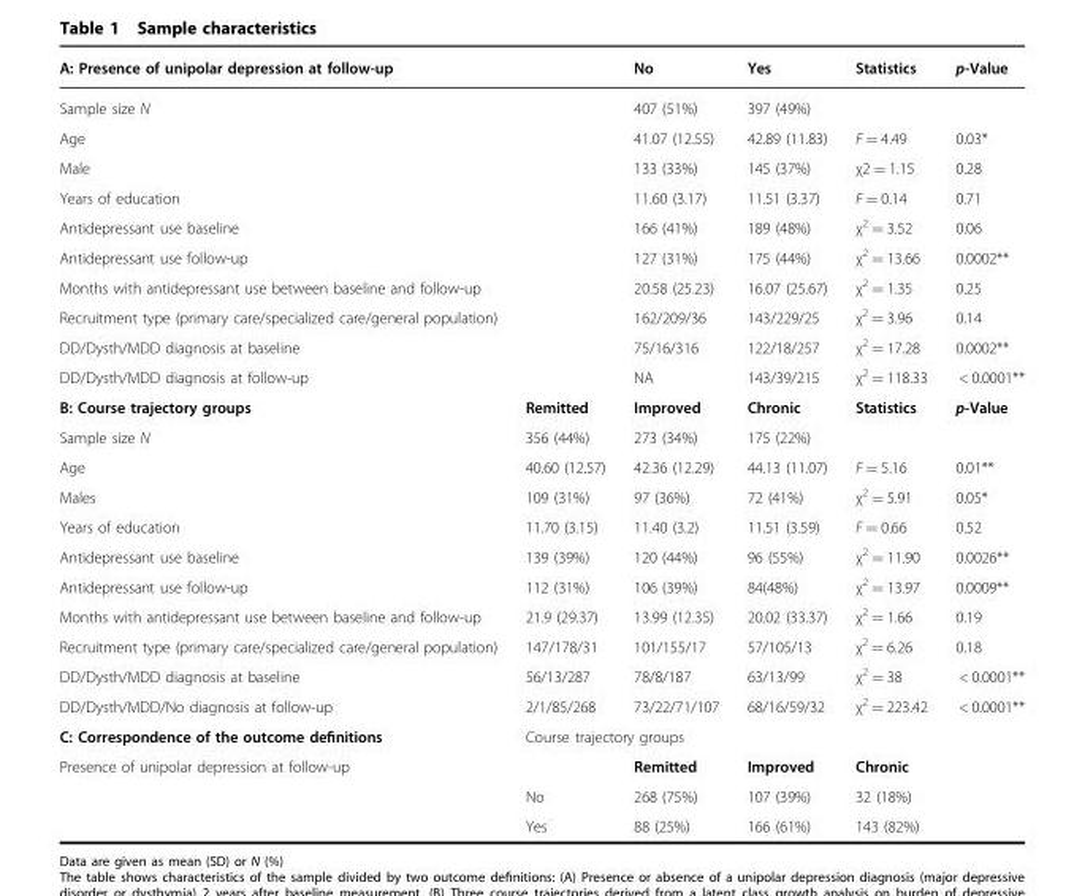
<table><thead><tr><td colspan="2">A: Presence of unipolar depression at follow-up</td><td>No</td><td>Yes</td><td>Statistics</td><td>p-Value</td></tr></thead><tbody><tr><td colspan="2">Sample size N</td><td>407 (51%)</td><td>397 (49%)</td><td></td><td></td></tr><tr><td colspan="2">Age</td><td>41.07 (12.55)</td><td>42.89 (11.83)</td><td>F = 4.49</td><td>0.03*</td></tr><tr><td colspan="2">Male</td><td>133 (33%)</td><td>145 (37%)</td><td>χ2 = 1.15</td><td>0.28</td></tr><tr><td colspan="2">Years of education</td><td>11.60 (3.17)</td><td>11.51 (3.37)</td><td>F = 0.14</td><td>0.71</td></tr><tr><td colspan="2">Antidepressant use baseline</td><td>166 (41%)</td><td>189 (48%)</td><td>χ<sup>2</sup> = 3.52</td><td>0.06</td></tr><tr><td colspan="2">Antidepressant use follow-up</td><td>127 (31%)</td><td>175 (44%)</td><td>χ<sup>2</sup> = 13.66</td><td>0.0002**</td></tr><tr><td colspan="2">Months with antidepressant use between baseline and follow-up</td><td>20.58 (25.23)</td><td>16.07 (25.67)</td><td>χ<sup>2</sup> = 1.35</td><td>0.25</td></tr><tr><td colspan="2">Recruitment type (primary care/specialized care/general population)</td><td>162/209/36</td><td>143/229/25</td><td>χ<sup>2</sup> = 3.96</td><td>0.14</td></tr><tr><td colspan="2">DD/Dysth/MDD diagnosis at baseline</td><td>75/16/316</td><td>122/18/257</td><td>χ<sup>2</sup> = 17.28</td><td>0.0002**</td></tr><tr><td colspan="2">DD/Dysth/MDD diagnosis at follow-up</td><td>NA</td><td>143/39/215</td><td>χ<sup>2</sup> = 118.33</td><td>&lt; 0.0001**</td></tr><tr><td>B: Course trajectory groups</td><td>Remitted</td><td>Improved</td><td>Chronic</td><td>Statistics</td><td>p-Value</td></tr><tr><td>Sample size N</td><td>356 (44%)</td><td>273 (34%)</td><td>175 (22%)</td><td></td><td></td></tr><tr><td>Age</td><td>40.60 (12.57)</td><td>42.36 (12.29)</td><td>44.13 (11.07)</td><td>F = 5.16</td><td>0.01**</td></tr><tr><td>Males</td><td>109 (31%)</td><td>97 (36%)</td><td>72 (41%)</td><td>χ<sup>2</sup> = 5.91</td><td>0.05*</td></tr><tr><td>Years of education</td><td>11.70 (3.15)</td><td>11.40 (3.2)</td><td>11.51 (3.59)</td><td>F = 0.66</td><td>0.52</td></tr><tr><td>Antidepressant use baseline</td><td>139 (39%)</td><td>120 (44%)</td><td>96 (55%)</td><td>χ<sup>2</sup> = 11.90</td><td>0.0026**</td></tr><tr><td>Antidepressant use follow-up</td><td>112 (31%)</td><td>106 (39%)</td><td>84(48%)</td><td>χ<sup>2</sup> = 13.97</td><td>0.0009**</td></tr><tr><td>Months with antidepressant use between baseline and follow-up</td><td>21.9 (29.37)</td><td>13.99 (12.35)</td><td>20.02 (33.37)</td><td>χ<sup>2</sup> = 1.66</td><td>0.19</td></tr><tr><td>Recruitment type (primary care/specialized care/general population)</td><td>147/178/31</td><td>101/155/17</td><td>57/105/13</td><td>χ<sup>2</sup> = 6.26</td><td>0.18</td></tr><tr><td>DD/Dysth/MDD diagnosis at baseline</td><td>56/13/287</td><td>78/8/187</td><td>63/13/99</td><td>χ<sup>2</sup> = 38</td><td>&lt; 0.0001**</td></tr><tr><td>DD/Dysth/MDD/No diagnosis at follow-up</td><td>2/1/85/268</td><td>73/22/71/107</td><td>68/16/59/32</td><td>χ<sup>2</sup> = 223.42</td><td>&lt; 0.0001**</td></tr><tr><td>C: Correspondence of the outcome definitions</td><td colspan="5">Course trajectory groups</td></tr><tr><td rowspan="3">Presence of unipolar depression at follow-up</td><td></td><td>Remitted</td><td>Improved</td><td>Chronic</td><td></td></tr><tr><td>No</td><td>268 (75%)</td><td>107 (39%)</td><td>32 (18%)</td><td></td></tr><tr><td>Yes</td><td>88 (25%)</td><td>166 (61%)</td><td>143 (82%)</td><td></td></tr></tbody></table>